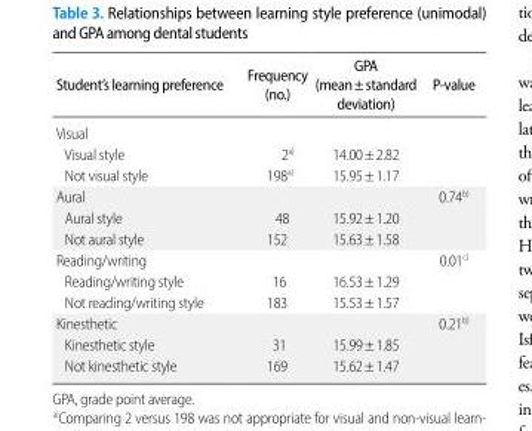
<table><thead><tr><td>Student’s learning preference</td><td>Frequency (no.)</td><td>GPA (mean±standard deviation)</td><td>P-value</td></tr></thead><tbody><tr><td colspan="4">Visual</td></tr><tr><td>Visual style</td><td>2<sup>a)</sup></td><td>14.00±2.82</td><td></td></tr><tr><td>Not visual style</td><td>198<sup>a)</sup></td><td>15.95±1.17</td><td></td></tr><tr><td>Aural</td><td></td><td></td><td>0.74<sup>b)</sup></td></tr><tr><td>Aural style</td><td>48</td><td>15.92±1.20</td><td></td></tr><tr><td>Not aural style</td><td>152</td><td>15.63±1.58</td><td></td></tr><tr><td>Reading/writing</td><td></td><td></td><td>0.01c)</td></tr><tr><td>Reading/writing style</td><td>16</td><td>16.53±1.29</td><td></td></tr><tr><td>Not reading/writing style</td><td>183</td><td>15.53±1.57</td><td></td></tr><tr><td>Kinesthetic</td><td></td><td></td><td>0.21<sup>b)</sup></td></tr><tr><td>Kinesthetic style</td><td>31</td><td>15.99±1.85</td><td></td></tr><tr><td>Not kinesthetic style</td><td>169</td><td>15.62±1.47</td><td></td></tr></tbody></table>